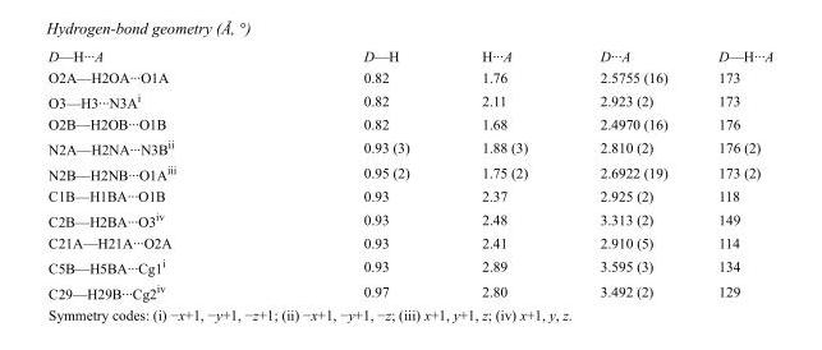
<table><tbody><tr><td>D—H···A</td><td>D—H</td><td>H···A</td><td>D···A</td><td>D—H···A</td></tr><tr><td>O2A—H2OA···O1A</td><td>0.82</td><td>1.76</td><td>2.5755 (16)</td><td>173</td></tr><tr><td>O3—H3···N3A<sup>i</sup></td><td>0.82</td><td>2.11</td><td>2.923 (2)</td><td>173</td></tr><tr><td>O2B—H2OB···O1B</td><td>0.82</td><td>1.68</td><td>2.4970 (16)</td><td>176</td></tr><tr><td>N2A—H2NA···N3B<sup>ii</sup></td><td>0.93 (3)</td><td>1.88 (3)</td><td>2.810 (2)</td><td>176 (2)</td></tr><tr><td>N2B—H2NB···O1A<sup>iii</sup></td><td>0.95 (2)</td><td>1.75 (2)</td><td>2.6922 (19)</td><td>173 (2)</td></tr><tr><td>C1B—H1BA···O1B</td><td>0.93</td><td>2.37</td><td>2.925 (2)</td><td>118</td></tr><tr><td>C2B—H2BA···O3<sup>iv</sup></td><td>0.93</td><td>2.48</td><td>3.313 (2)</td><td>149</td></tr><tr><td>C21A—H21A···O2A</td><td>0.93</td><td>2.41</td><td>2.910 (5)</td><td>114</td></tr><tr><td>C5B—H5BA···Cg1<sup>i</sup></td><td>0.93</td><td>2.89</td><td>3.595 (3)</td><td>134</td></tr><tr><td>C29—H29B···Cg2<sup>iv</sup></td><td>0.97</td><td>2.80</td><td>3.492 (2)</td><td>129</td></tr></tbody></table>